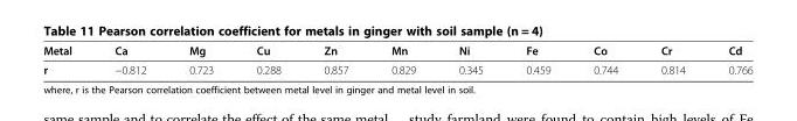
<table><thead><tr><td>Metal</td><td>Ca</td><td>Mg</td><td>Cu</td><td>Zn</td><td>Mn</td><td>Ni</td><td>Fe</td><td>Co</td><td>Cr</td><td>Cd</td></tr></thead><tbody><tr><td>r</td><td>−0.812</td><td>0.723</td><td>0.288</td><td>0.857</td><td>0.829</td><td>0.345</td><td>0.459</td><td>0.744</td><td>0.814</td><td>0.766</td></tr></tbody></table>